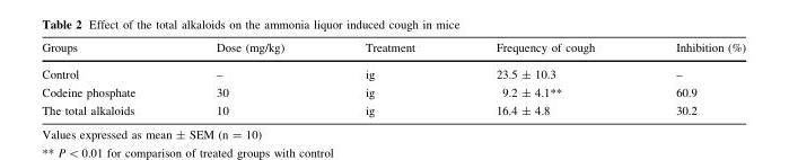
<table><thead><tr><td>Groups</td><td>Dose (mg/kg)</td><td>Treatment</td><td>Frequency of cough</td><td>Inhibition (%)</td></tr></thead><tbody><tr><td>Control</td><td>–</td><td>ig</td><td>23.5 ± 10.3</td><td>–</td></tr><tr><td>Codeine phosphate</td><td>30</td><td>ig</td><td>9.2 ± 4.1**</td><td>60.9</td></tr><tr><td>The total alkaloids</td><td>10</td><td>ig</td><td>16.4 ± 4.8</td><td>30.2</td></tr></tbody></table>